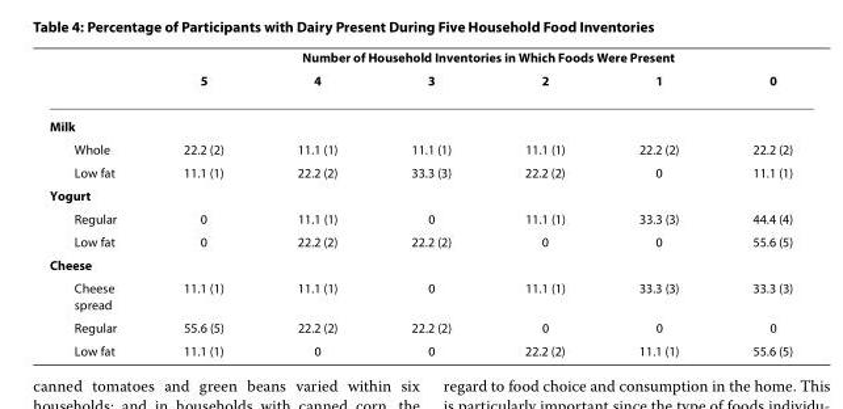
<table><thead><tr><td rowspan="2"></td><td colspan="6">Number of Household Inventories in Which Foods Were Present</td></tr><tr><td>5</td><td>4</td><td>3</td><td>2</td><td>1</td><td>0</td></tr></thead><tbody><tr><td colspan="7">Milk</td></tr><tr><td>Whole</td><td>22.2 (2)</td><td>11.1 (1)</td><td>11.1 (1)</td><td>11.1 (1)</td><td>22.2 (2)</td><td>22.2 (2)</td></tr><tr><td>Low fat</td><td>11.1 (1)</td><td>22.2 (2)</td><td>33.3 (3)</td><td>22.2 (2)</td><td>0</td><td>11.1 (1)</td></tr><tr><td colspan="7">Yogurt</td></tr><tr><td>Regular</td><td>0</td><td>11.1 (1)</td><td>0</td><td>11.1 (1)</td><td>33.3 (3)</td><td>44.4 (4)</td></tr><tr><td>Low fat</td><td>0</td><td>22.2 (2)</td><td>22.2 (2)</td><td>0</td><td>0</td><td>55.6 (5)</td></tr><tr><td colspan="7">Cheese</td></tr><tr><td>Cheese spread</td><td>11.1 (1)</td><td>11.1 (1)</td><td>0</td><td>11.1 (1)</td><td>33.3 (3)</td><td>33.3 (3)</td></tr><tr><td>Regular</td><td>55.6 (5)</td><td>22.2 (2)</td><td>22.2 (2)</td><td>0</td><td>0</td><td>0</td></tr><tr><td>Low fat</td><td>11.1 (1)</td><td>0</td><td>0</td><td>22.2 (2)</td><td>11.1 (1)</td><td>55.6 (5)</td></tr></tbody></table>